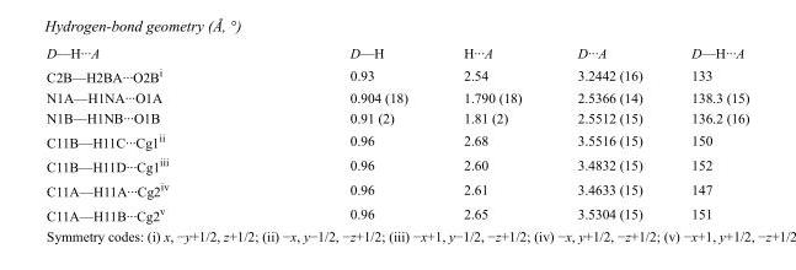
<table><tbody><tr><td>D—H···A</td><td>D—H</td><td>H···A</td><td>D···A</td><td>D—H···A</td></tr><tr><td>C2B—H2BA···O2B<sup>i</sup></td><td>0.93</td><td>2.54</td><td>3.2442 (16)</td><td>133</td></tr><tr><td>N1A—H1NA···O1A</td><td>0.904 (18)</td><td>1.790 (18)</td><td>2.5366 (14)</td><td>138.3 (15)</td></tr><tr><td>N1B—H1NB···O1B</td><td>0.91 (2)</td><td>1.81 (2)</td><td>2.5512 (15)</td><td>136.2 (16)</td></tr><tr><td>C11B—H11C···Cg1<sup>ii</sup></td><td>0.96</td><td>2.68</td><td>3.5516 (15)</td><td>150</td></tr><tr><td>C11B—H11D···Cg1<sup>iii</sup></td><td>0.96</td><td>2.60</td><td>3.4832 (15)</td><td>152</td></tr><tr><td>C11A—H11A···Cg2<sup>iv</sup></td><td>0.96</td><td>2.61</td><td>3.4633 (15)</td><td>147</td></tr><tr><td>C11A—H11B···Cg2<sup>v</sup></td><td>0.96</td><td>2.65</td><td>3.5304 (15)</td><td>151</td></tr></tbody></table>